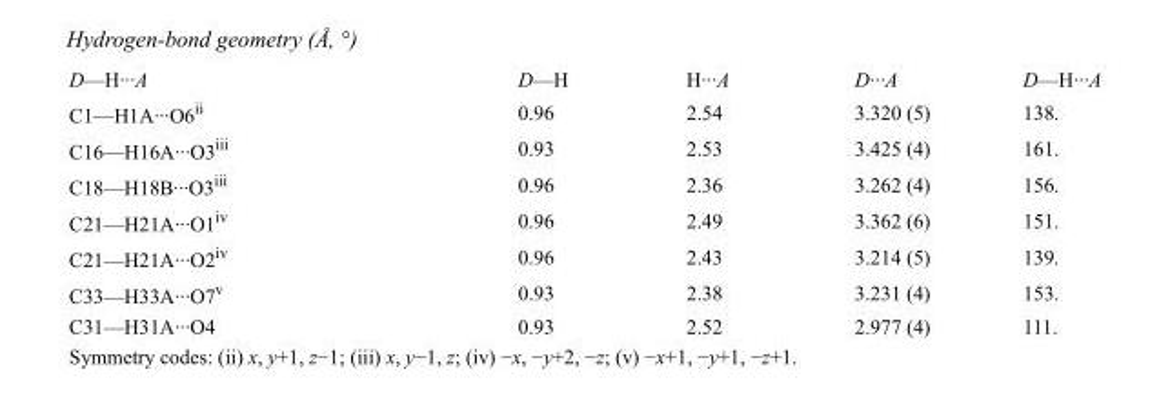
<table><tbody><tr><td>D—H···A</td><td>D—H</td><td>H···A</td><td>D···A</td><td>D—H···A</td></tr><tr><td>C1—H1A···O6<sup>ii</sup></td><td>0.96</td><td>2.54</td><td>3.320 (5)</td><td>138.</td></tr><tr><td>C16—H16A···O3<sup>iii</sup></td><td>0.93</td><td>2.53</td><td>3.425 (4)</td><td>161.</td></tr><tr><td>C18—H18B···O3<sup>iii</sup></td><td>0.96</td><td>2.36</td><td>3.262 (4)</td><td>156.</td></tr><tr><td>C21—H21A···O1<sup>iv</sup></td><td>0.96</td><td>2.49</td><td>3.362 (6)</td><td>151.</td></tr><tr><td>C21—H21A···O2<sup>iv</sup></td><td>0.96</td><td>2.43</td><td>3.214 (5)</td><td>139.</td></tr><tr><td>C33—H33A···O7<sup>v</sup></td><td>0.93</td><td>2.38</td><td>3.231 (4)</td><td>153.</td></tr><tr><td>C31—H31A···O4</td><td>0.93</td><td>2.52</td><td>2.977 (4)</td><td>111.</td></tr></tbody></table>